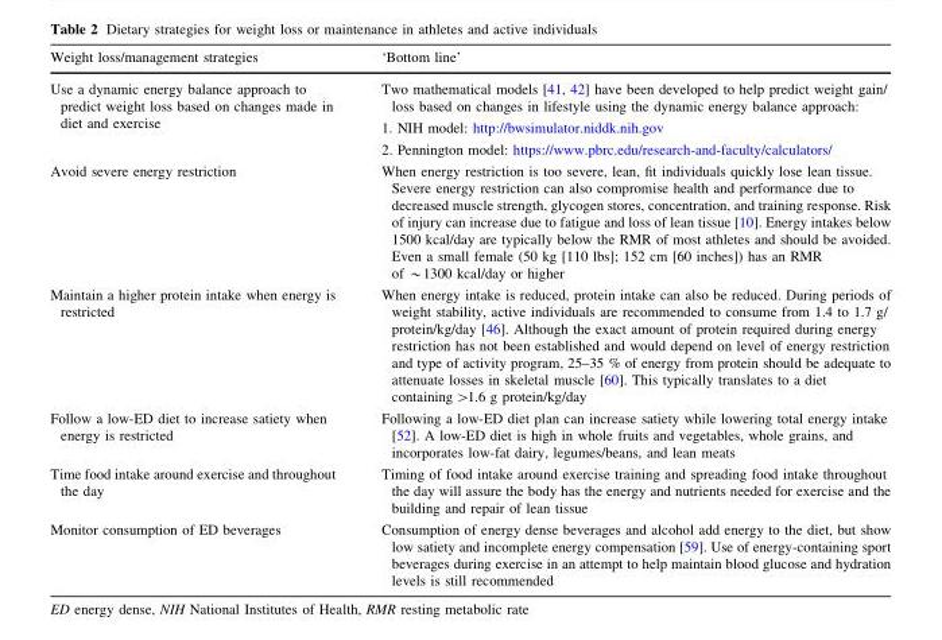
<table><thead><tr><td>Weight loss/management strategies</td><td>‘Bottom line’</td></tr></thead><tbody><tr><td>Use a dynamic energy balance approach to predict weight loss based on changes made in diet and exercise</td><td>Two mathematical models [41, 42] have been developed to help predict weight gain/ loss based on changes in lifestyle using the dynamic energy balance approach: 1. NIH model: http://bwsimulator.niddk.nih.gov 2. Pennington model: https://www.pbrc.edu/research-and-faculty/calculators/</td></tr><tr><td>Avoid severe energy restriction</td><td>When energy restriction is too severe, lean, fit individuals quickly lose lean tissue. Severe energy restriction can also compromise health and performance due to decreased muscle strength, glycogen stores, concentration, and training response. Risk of injury can increase due to fatigue and loss of lean tissue [10]. Energy intakes below 1500 kcal/day are typically below the RMR of most athletes and should be avoided. Even a small female (50 kg [110 lbs]; 152 cm [60 inches]) has an RMR of *1300 kcal/day or higher</td></tr><tr><td>Maintain a higher protein intake when energy is restricted</td><td>When energy intake is reduced, protein intake can also be reduced. During periods of weight stability, active individuals are recommended to consume from 1.4 to 1.7 g/ protein/kg/day [46]. Although the exact amount of protein required during energy restriction has not been established and would depend on level of energy restriction and type of activity program, 25–35 % of energy from protein should be adequate to attenuate losses in skeletal muscle [60]. This typically translates to a diet containing &gt;1.6 g protein/kg/day</td></tr><tr><td>Follow a low-ED diet to increase satiety when energy is restricted</td><td>Following a low-ED diet plan can increase satiety while lowering total energy intake [52]. A low-ED diet is high in whole fruits and vegetables, whole grains, and incorporates low-fat dairy, legumes/beans, and lean meats</td></tr><tr><td>Time food intake around exercise and throughout the day</td><td>Timing of food intake around exercise training and spreading food intake throughout the day will assure the body has the energy and nutrients needed for exercise and the building and repair of lean tissue</td></tr><tr><td>Monitor consumption of ED beverages</td><td>Consumption of energy dense beverages and alcohol add energy to the diet, but show low satiety and incomplete energy compensation [59]. Use of energy-containing sport beverages during exercise in an attempt to help maintain blood glucose and hydration levels is still recommended</td></tr></tbody></table>